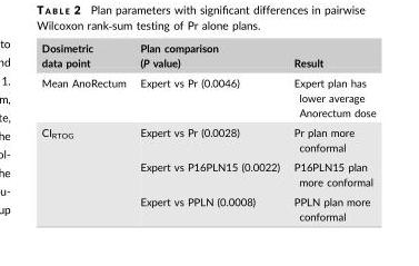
<table><thead><tr><td>Dosimetric data point</td><td>Plan comparison (P value)</td><td>Result</td></tr></thead><tbody><tr><td>Mean AnoRectum</td><td>Expert vs Pr (0.0046)</td><td>Expert plan has lower average Anorectum dose</td></tr><tr><td rowspan="3">CI<sub>RTOG</sub></td><td>Expert vs Pr (0.0028)</td><td>Pr plan more conformal</td></tr><tr><td>Expert vs P16PLN15 (0.0022)</td><td>P16PLN15 plan more conformal</td></tr><tr><td>Expert vs PPLN (0.0008)</td><td>PPLN plan more conformal</td></tr></tbody></table>